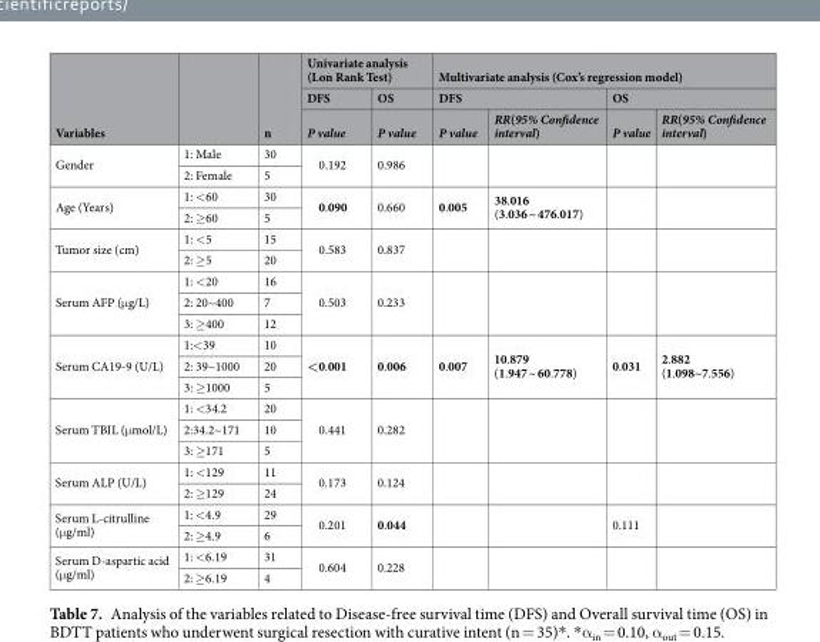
<table><thead><tr><td rowspan="3">Variables</td><td rowspan="3"></td><td rowspan="3">n</td><td colspan="2">Univariate analysis (Lon Rank Test)</td><td colspan="4">Multivariate analysis (Cox’s regression model)</td></tr><tr><td rowspan="2">DFS P value</td><td rowspan="2">OS P value</td><td colspan="2">DFS</td><td colspan="2">OS</td></tr><tr><td>P value</td><td>RR(95% Confidence interval)</td><td>P value</td><td>RR(95% Confidence interval)</td></tr></thead><tbody><tr><td rowspan="2">Gender</td><td>1: Male</td><td>30</td><td rowspan="2">0.192</td><td rowspan="2">0.986</td><td rowspan="2"></td><td rowspan="2"></td><td rowspan="2"></td><td rowspan="2"></td></tr><tr><td>2: Female</td><td>5</td></tr><tr><td rowspan="2">Age (Years)</td><td>1: &lt;60</td><td>30</td><td rowspan="2">0.090</td><td rowspan="2">0.660</td><td rowspan="2">0.005</td><td rowspan="2">38.016 (3.036 ~ 476.017)</td><td rowspan="2"></td><td rowspan="2"></td></tr><tr><td>2: ≥60</td><td>5</td></tr><tr><td rowspan="2">Tumor size (cm)</td><td>1: &lt;5</td><td>15</td><td rowspan="2">0.583</td><td rowspan="2">0.837</td><td rowspan="2"></td><td rowspan="2"></td><td rowspan="2"></td><td rowspan="2"></td></tr><tr><td>2: ≥5</td><td>20</td></tr><tr><td rowspan="3">Serum AFP (μg/L)</td><td>1: &lt;20</td><td>16</td><td rowspan="3">0.503</td><td rowspan="3">0.233</td><td rowspan="3"></td><td rowspan="3"></td><td rowspan="3"></td><td rowspan="3"></td></tr><tr><td>2: 20~400</td><td>7</td></tr><tr><td>3: ≥400</td><td>12</td></tr><tr><td rowspan="3">Serum CA19-9 (U/L)</td><td>1:&lt;39</td><td>10</td><td rowspan="3">&lt;0.001</td><td rowspan="3">0.006</td><td rowspan="3">0.007</td><td rowspan="3">10.879 (1.947 ~ 60.778)</td><td rowspan="3">0.031</td><td rowspan="3">2.882 (1.098~7.556)</td></tr><tr><td>2: 39~1000</td><td>20</td></tr><tr><td>3: ≥1000</td><td>5</td></tr><tr><td rowspan="3">Serum TBIL (μmol/L)</td><td>1: &lt;34.2</td><td>20</td><td rowspan="3">0.441</td><td rowspan="3">0.282</td><td rowspan="3"></td><td rowspan="3"></td><td rowspan="3"></td><td rowspan="3"></td></tr><tr><td>2:34.2~171</td><td>10</td></tr><tr><td>3: ≥171</td><td>5</td></tr><tr><td rowspan="2">Serum ALP (U/L)</td><td>1: &lt;129</td><td>11</td><td rowspan="2">0.173</td><td rowspan="2">0.124</td><td rowspan="2"></td><td rowspan="2"></td><td rowspan="2"></td><td rowspan="2"></td></tr><tr><td>2: ≥129</td><td>24</td></tr><tr><td rowspan="2">Serum L-citrulline (μg/ml)</td><td>1: &lt;4.9</td><td>29</td><td rowspan="2">0.201</td><td rowspan="2">0.044</td><td rowspan="2"></td><td rowspan="2"></td><td rowspan="2">0.111</td><td rowspan="2"></td></tr><tr><td>2: ≥4.9</td><td>6</td></tr><tr><td rowspan="2">Serum D-aspartic acid (μg/ml)</td><td>1: &lt;6.19</td><td>31</td><td rowspan="2">0.604</td><td rowspan="2">0.228</td><td rowspan="2"></td><td rowspan="2"></td><td rowspan="2"></td><td rowspan="2"></td></tr><tr><td>2: ≥6.19</td><td>4</td></tr></tbody></table>